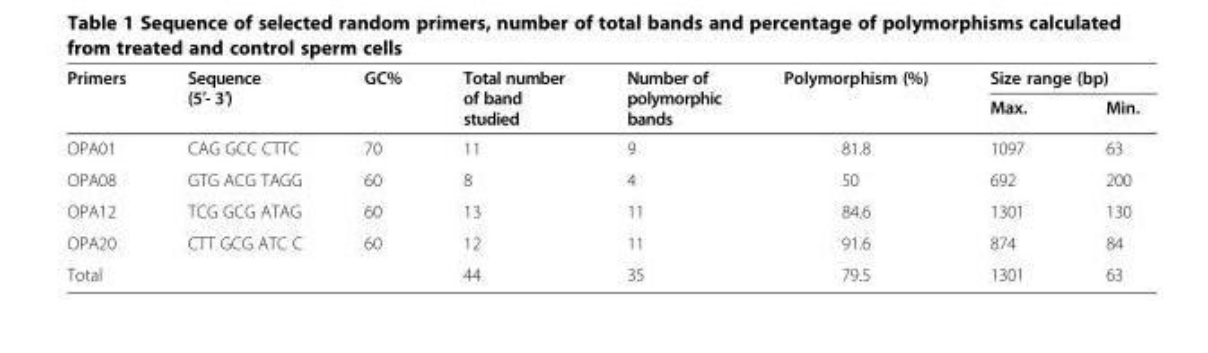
<table><thead><tr><td rowspan="2">Primers</td><td rowspan="2">Sequence (5′- 3′)</td><td rowspan="2">GC%</td><td rowspan="2">Total number of band studied</td><td rowspan="2">Number of polymorphic bands</td><td rowspan="2">Polymorphism (%)</td><td colspan="2">Size range (bp)</td></tr><tr><td>Max.</td><td>Min.</td></tr></thead><tbody><tr><td>OPA01</td><td>CAG GCC CTTC</td><td>70</td><td>11</td><td>9</td><td>81.8</td><td>1097</td><td>63</td></tr><tr><td>OPA08</td><td>GTG ACG TAGG</td><td>60</td><td>8</td><td>4</td><td>50</td><td>692</td><td>200</td></tr><tr><td>OPA12</td><td>TCG GCG ATAG</td><td>60</td><td>13</td><td>11</td><td>84.6</td><td>1301</td><td>130</td></tr><tr><td>OPA20</td><td>CTT GCG ATC C</td><td>60</td><td>12</td><td>11</td><td>91.6</td><td>874</td><td>84</td></tr><tr><td>Total</td><td></td><td></td><td>44</td><td>35</td><td>79.5</td><td>1301</td><td>63</td></tr></tbody></table>